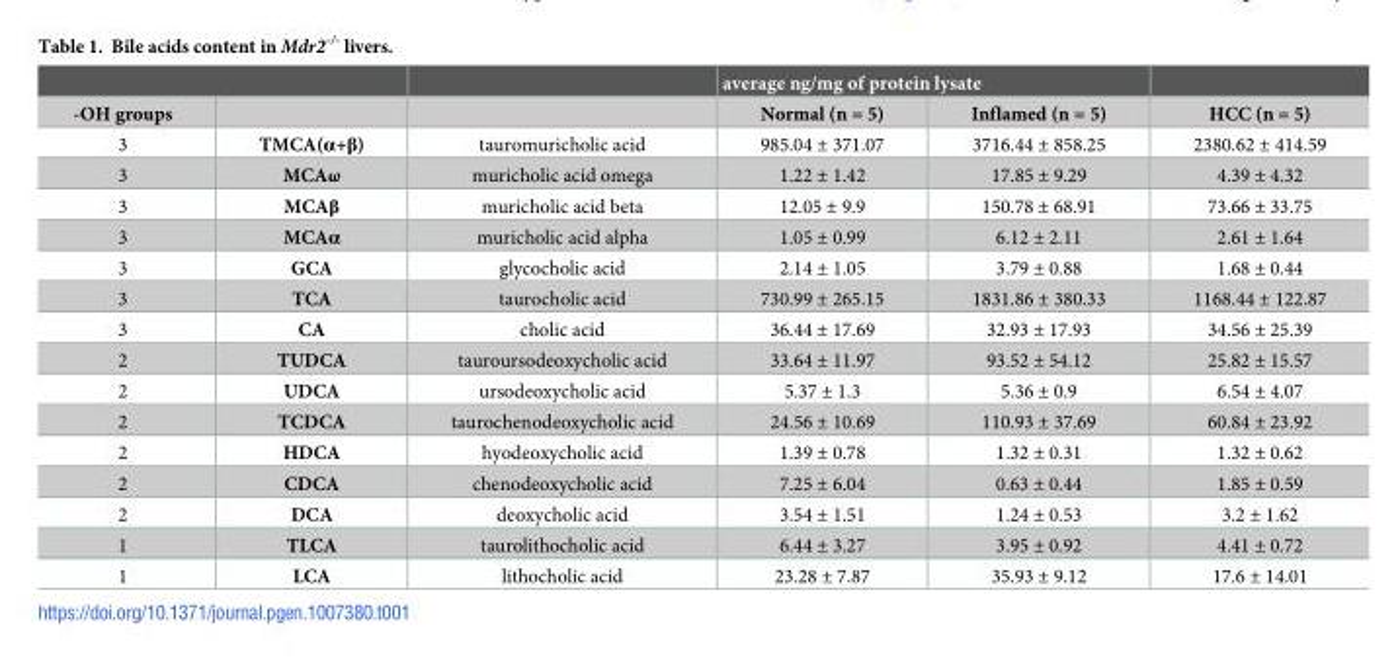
<table><thead><tr><td rowspan="2">-OH groups</td><td rowspan="2"></td><td rowspan="2"></td><td colspan="2">average ng/mg of protein lysate</td><td rowspan="2">HCC (n = 5)</td></tr><tr><td>Normal (n = 5)</td><td>Inflamed (n = 5)</td></tr></thead><tbody><tr><td>3</td><td>TMCA(α+β)</td><td>tauromuricholic acid</td><td>985.04 ± 371.07</td><td>3716.44 ± 858.25</td><td>2380.62 ± 414.59</td></tr><tr><td>3</td><td>MCAω</td><td>muricholic acid omega</td><td>1.22 ± 1.42</td><td>17.85 ± 9.29</td><td>4.39 ± 4.32</td></tr><tr><td>3</td><td>MCAβ</td><td>muricholic acid beta</td><td>12.05 ± 9.9</td><td>150.78 ± 68.91</td><td>73.66 ± 33.75</td></tr><tr><td>3</td><td>MCAα</td><td>muricholic acid alpha</td><td>1.05 ± 0.99</td><td>6.12 ± 2.11</td><td>2.61 ± 1.64</td></tr><tr><td>3</td><td>GCA</td><td>glycocholic acid</td><td>2.14 ± 1.05</td><td>3.79 ± 0.88</td><td>1.68 ± 0.44</td></tr><tr><td>3</td><td>TCA</td><td>taurocholic acid</td><td>730.99 ± 265.15</td><td>1831.86 ± 380.33</td><td>1168.44 ± 122.87</td></tr><tr><td>3</td><td>CA</td><td>cholic acid</td><td>36.44 ± 17.69</td><td>32.93 ± 17.93</td><td>34.56 ± 25.39</td></tr><tr><td>2</td><td>TUDCA</td><td>tauroursodeoxycholic acid</td><td>33.64 ± 11.97</td><td>93.52 ± 54.12</td><td>25.82 ± 15.57</td></tr><tr><td>2</td><td>UDCA</td><td>ursodeoxycholic acid</td><td>5.37 ± 1.3</td><td>5.36 ± 0.9</td><td>6.54 ± 4.07</td></tr><tr><td>2</td><td>TCDCA</td><td>taurochenodeoxycholic acid</td><td>24.56 ± 10.69</td><td>110.93 ± 37.69</td><td>60.84 ± 23.92</td></tr><tr><td>2</td><td>HDCA</td><td>hyodeoxycholic acid</td><td>1.39 ± 0.78</td><td>1.32 ± 0.31</td><td>1.32 ± 0.62</td></tr><tr><td>2</td><td>CDCA</td><td>chenodeoxycholic acid</td><td>7.25 ± 6.04</td><td>0.63 ± 0.44</td><td>1.85 ± 0.59</td></tr><tr><td>2</td><td>DCA</td><td>deoxycholic acid</td><td>3.54 ± 1.51</td><td>1.24 ± 0.53</td><td>3.2 ± 1.62</td></tr><tr><td>1</td><td>TLCA</td><td>taurolithocholic acid</td><td>6.44 ± 3.27</td><td>3.95 ± 0.92</td><td>4.41 ± 0.72</td></tr><tr><td>1</td><td>LCA</td><td>lithocholic acid</td><td>23.28 ± 7.87</td><td>35.93 ± 9.12</td><td>17.6 ± 14.01</td></tr></tbody></table>